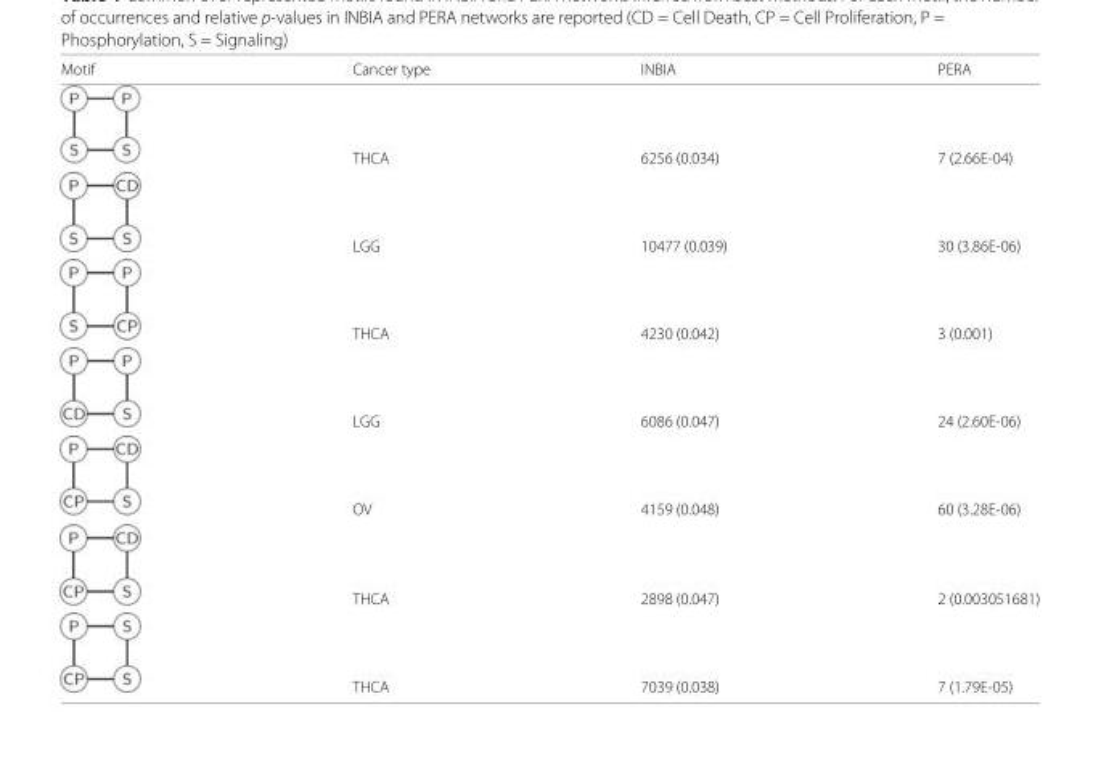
<table><thead><tr><td>Motif</td><td>Cancer type</td><td>INBIA</td><td>PERA</td></tr></thead><tbody><tr><td></td><td>THCA</td><td>6256 (0.034)</td><td>7 (2.66E-04)</td></tr><tr><td></td><td>LGG</td><td>10477 (0.039)</td><td>30 (3.86E-06)</td></tr><tr><td></td><td>THCA</td><td>4230 (0.042)</td><td>3 (0.001)</td></tr><tr><td></td><td>LGG</td><td>6086 (0.047)</td><td>24 (2.60E-06)</td></tr><tr><td></td><td>OV</td><td>4159 (0.048)</td><td>60 (3.28E-06)</td></tr><tr><td></td><td>THCA</td><td>2898 (0.047)</td><td>2 (0.003051681)</td></tr><tr><td></td><td>THCA</td><td>7039 (0.038)</td><td>7 (1.79E-05)</td></tr></tbody></table>